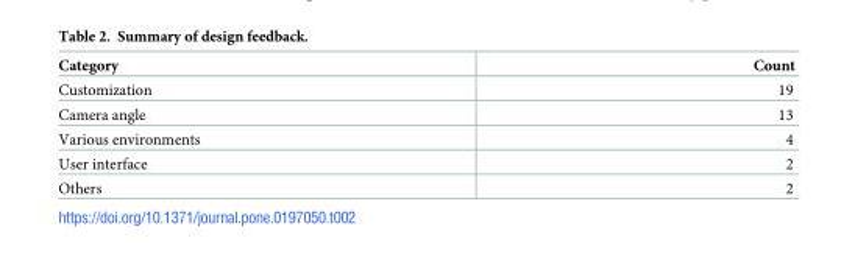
<table><thead><tr><td>Category</td><td>Count</td></tr></thead><tbody><tr><td>Customization</td><td>19</td></tr><tr><td>Camera angle</td><td>13</td></tr><tr><td>Various environments</td><td>4</td></tr><tr><td>User interface</td><td>2</td></tr><tr><td>Others</td><td>2</td></tr></tbody></table>